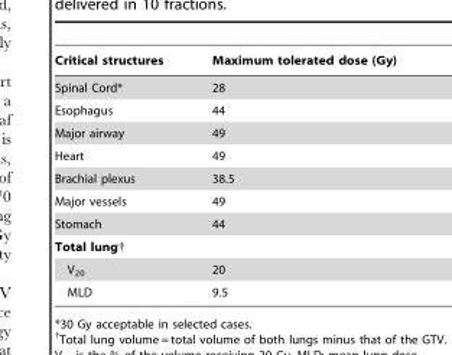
<table><thead><tr><td>Critical structures</td><td>Maximum tolerated dose (Gy)</td></tr></thead><tbody><tr><td>Spinal Cord*</td><td>28</td></tr><tr><td>Esophagus</td><td>44</td></tr><tr><td>Major airway</td><td>49</td></tr><tr><td>Heart</td><td>49</td></tr><tr><td>Brachial plexus</td><td>38.5</td></tr><tr><td>Major vessels</td><td>49</td></tr><tr><td>Stomach</td><td>44</td></tr><tr><td colspan="2">Total lung†</td></tr><tr><td>V<sub>20</sub></td><td>20</td></tr><tr><td>MLD</td><td>9.5</td></tr></tbody></table>